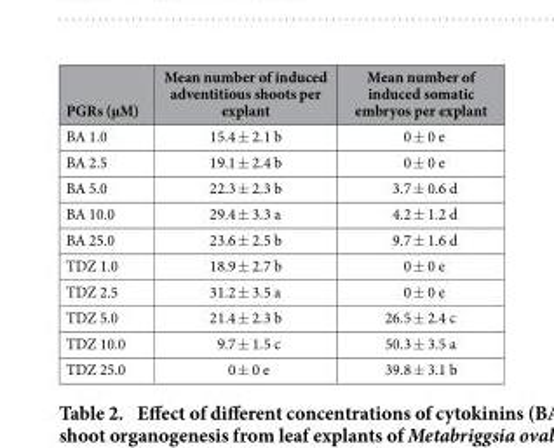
<table><thead><tr><td>PGRs (μM)</td><td>Mean number of induced adventitious shoots per explant</td><td>Mean number of induced somatic embryos per explant</td></tr></thead><tbody><tr><td>BA 1.0</td><td>15.4 ± 2.1 b</td><td>0 ± 0 e</td></tr><tr><td>BA 2.5</td><td>19.1 ± 2.4 b</td><td>0 ± 0 e</td></tr><tr><td>BA 5.0</td><td>22.3 ± 2.3 b</td><td>3.7 ± 0.6 d</td></tr><tr><td>BA 10.0</td><td>29.4 ± 3.3 a</td><td>4.2 ± 1.2 d</td></tr><tr><td>BA 25.0</td><td>23.6 ± 2.5 b</td><td>9.7 ± 1.6 d</td></tr><tr><td>TDZ 1.0</td><td>18.9 ± 2.7 b</td><td>0 ± 0 e</td></tr><tr><td>TDZ 2.5</td><td>31.2 ± 3.5 a</td><td>0 ± 0 e</td></tr><tr><td>TDZ 5.0</td><td>21.4 ± 2.3 b</td><td>26.5 ± 2.4 c</td></tr><tr><td>TDZ 10.0</td><td>9.7 ± 1.5 c</td><td>50.3 ± 3.5 a</td></tr><tr><td>TDZ 25.0</td><td>0 ± 0 e</td><td>39.8 ± 3.1 b</td></tr></tbody></table>